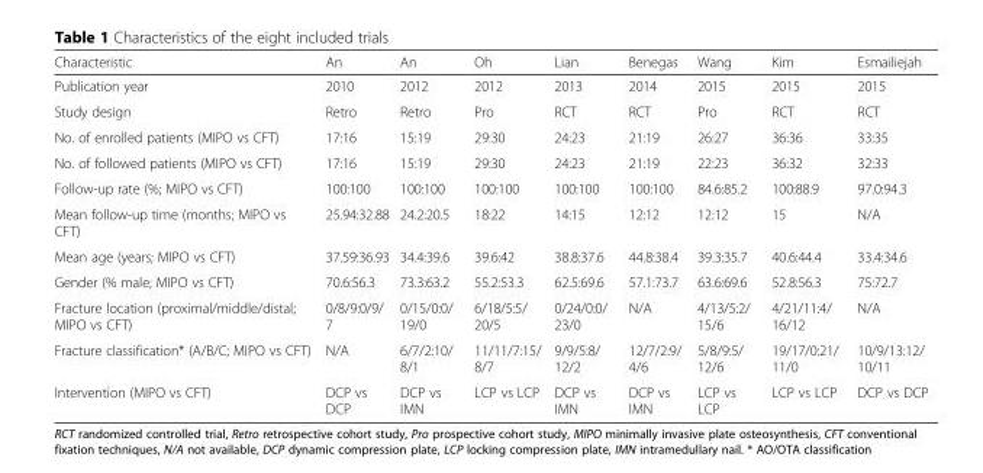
<table><thead><tr><td>Characteristic</td><td>An</td><td>An</td><td>Oh</td><td>Lian</td><td>Benegas</td><td>Wang</td><td>Kim</td><td>Esmailiejah</td></tr></thead><tbody><tr><td>Publication year</td><td>2010</td><td>2012</td><td>2012</td><td>2013</td><td>2014</td><td>2015</td><td>2015</td><td>2015</td></tr><tr><td>Study design</td><td>Retro</td><td>Retro</td><td>Pro</td><td>RCT</td><td>RCT</td><td>Pro</td><td>RCT</td><td>RCT</td></tr><tr><td>No. of enrolled patients (MIPO vs CFT)</td><td>17:16</td><td>15:19</td><td>29:30</td><td>24:23</td><td>21:19</td><td>26:27</td><td>36:36</td><td>33:35</td></tr><tr><td>No. of followed patients (MIPO vs CFT)</td><td>17:16</td><td>15:19</td><td>29:30</td><td>24:23</td><td>21:19</td><td>22:23</td><td>36:32</td><td>32:33</td></tr><tr><td>Follow-up rate (%; MIPO vs CFT)</td><td>100:100</td><td>100:100</td><td>100:100</td><td>100:100</td><td>100:100</td><td>84.6:85.2</td><td>100:88.9</td><td>97.0:94.3</td></tr><tr><td>Mean follow-up time (months; MIPO vs CFT)</td><td>25.94:32.88</td><td>24.2:20.5</td><td>18:22</td><td>14:15</td><td>12:12</td><td>12:12</td><td>15</td><td>N/A</td></tr><tr><td>Mean age (years; MIPO vs CFT)</td><td>37.59:36.93</td><td>34.4:39.6</td><td>39.6:42</td><td>38.8:37.6</td><td>44.8:38.4</td><td>39.3:35.7</td><td>40.6:44.4</td><td>33.4:34.6</td></tr><tr><td>Gender (% male; MIPO vs CFT)</td><td>70.6:56.3</td><td>73.3:63.2</td><td>55.2:53.3</td><td>62.5:69.6</td><td>57.1:73.7</td><td>63.6:69.6</td><td>52.8:56.3</td><td>75:72.7</td></tr><tr><td>Fracture location (proximal/middle/distal; MIPO vs CFT)</td><td>0/8/9:0/9/ 7</td><td>0/15/0:0/ 19/0</td><td>6/18/5:5/ 20/5</td><td>0/24/0:0/ 23/0</td><td>N/A</td><td>4/13/5:2/ 15/6</td><td>4/21/11:4/ 16/12</td><td>N/A</td></tr><tr><td>Fracture classification* (A/B/C; MIPO vs CFT)</td><td>N/A</td><td>6/7/2:10/ 8/1</td><td>11/11/7:15/ 8/7</td><td>9/9/5:8/ 12/2</td><td>12/7/2:9/ 4/6</td><td>5/8/9:5/ 12/6</td><td>19/17/0:21/ 11/0</td><td>10/9/13:12/ 10/11</td></tr><tr><td>Intervention (MIPO vs CFT)</td><td>DCP vs DCP</td><td>DCP vs IMN</td><td>LCP vs LCP</td><td>DCP vs IMN</td><td>DCP vs IMN</td><td>LCP vs LCP</td><td>LCP vs LCP</td><td>DCP vs DCP</td></tr></tbody></table>